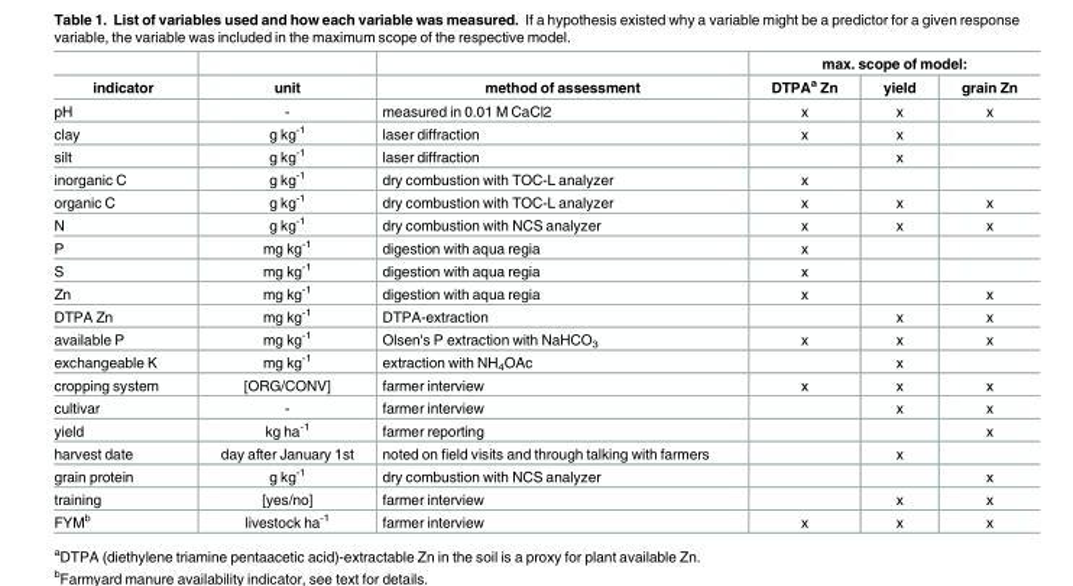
<table><thead><tr><td rowspan="2">indicator</td><td rowspan="2">unit</td><td rowspan="2">method of assessment</td><td colspan="3">max. scope of model:</td></tr><tr><td>DTPA<sup>a</sup> Zn</td><td>yield</td><td>grain Zn</td></tr></thead><tbody><tr><td>pH</td><td>-</td><td>measured in 0.01 M CaCl2</td><td>x</td><td>x</td><td>x</td></tr><tr><td>clay</td><td>g kg<sup>-1</sup></td><td>laser diffraction</td><td>x</td><td>x</td><td></td></tr><tr><td>silt</td><td>g kg<sup>-1</sup></td><td>laser diffraction</td><td></td><td>x</td><td></td></tr><tr><td>inorganic C</td><td>g kg<sup>-1</sup></td><td>dry combustion with TOC-L analyzer</td><td>x</td><td></td><td></td></tr><tr><td>organic C</td><td>g kg<sup>-1</sup></td><td>dry combustion with TOC-L analyzer</td><td>x</td><td>x</td><td>x</td></tr><tr><td>N</td><td>g kg<sup>-1</sup></td><td>dry combustion with NCS analyzer</td><td>x</td><td>x</td><td>x</td></tr><tr><td>P</td><td>mg kg<sup>-1</sup></td><td>digestion with aqua regia</td><td>x</td><td></td><td></td></tr><tr><td>S</td><td>mg kg<sup>-1</sup></td><td>digestion with aqua regia</td><td>x</td><td></td><td></td></tr><tr><td>Zn</td><td>mg kg<sup>-1</sup></td><td>digestion with aqua regia</td><td>x</td><td></td><td>x</td></tr><tr><td>DTPA Zn</td><td>mg kg<sup>-1</sup></td><td>DTPA-extraction</td><td></td><td>x</td><td>x</td></tr><tr><td>available P</td><td>mg kg<sup>-1</sup></td><td>Olsen&#x27;s P extraction with NaHCO<sub>3</sub></td><td>x</td><td>x</td><td>x</td></tr><tr><td>exchangeable K</td><td>mg kg<sup>-1</sup></td><td>extraction with NH<sub>4</sub>OAc</td><td></td><td>x</td><td></td></tr><tr><td>cropping system</td><td>[ORG/CONV]</td><td>farmer interview</td><td>x</td><td>x</td><td>x</td></tr><tr><td>cultivar</td><td>-</td><td>farmer interview</td><td></td><td>x</td><td>x</td></tr><tr><td>yield</td><td>kg ha<sup>-1</sup></td><td>farmer reporting</td><td></td><td></td><td>x</td></tr><tr><td>harvest date</td><td>day after January 1st</td><td>noted on field visits and through talking with farmers</td><td></td><td>x</td><td></td></tr><tr><td>grain protein</td><td>g kg<sup>-1</sup></td><td>dry combustion with NCS analyzer</td><td></td><td></td><td>x</td></tr><tr><td>training</td><td>[yes/no]</td><td>farmer interview</td><td></td><td>x</td><td>x</td></tr><tr><td>FYM<sup>b</sup></td><td>livestock ha<sup>-1</sup></td><td>farmer interview</td><td>x</td><td>x</td><td>x</td></tr></tbody></table>